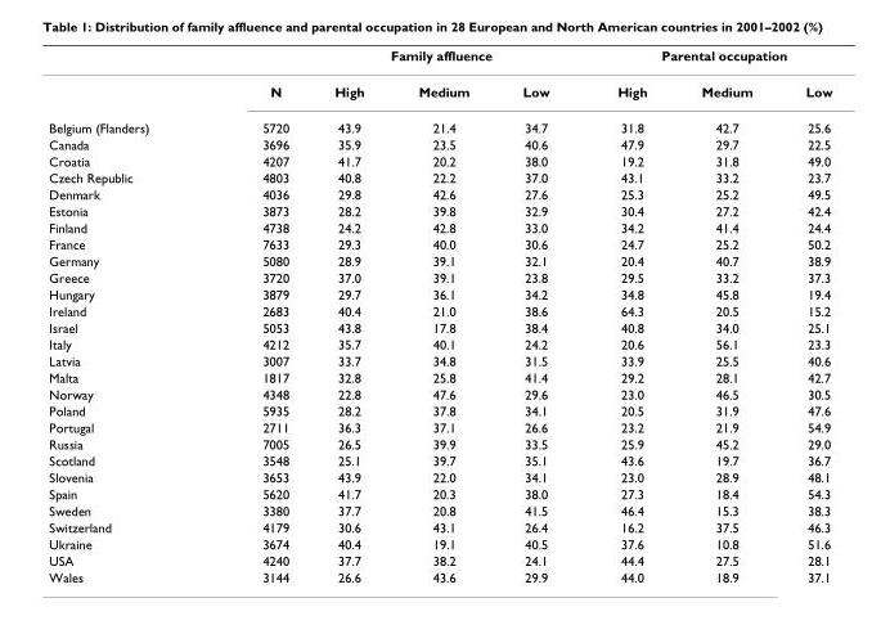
<table><thead><tr><td rowspan="2"></td><td rowspan="2">N</td><td colspan="3">Family affluence</td><td colspan="3">Parental occupation</td></tr><tr><td>High</td><td>Medium</td><td>Low</td><td>High</td><td>Medium</td><td>Low</td></tr></thead><tbody><tr><td>Belgium (Flanders)</td><td>5720</td><td>43.9</td><td>21.4</td><td>34.7</td><td>31.8</td><td>42.7</td><td>25.6</td></tr><tr><td>Canada</td><td>3696</td><td>35.9</td><td>23.5</td><td>40.6</td><td>47.9</td><td>29.7</td><td>22.5</td></tr><tr><td>Croatia</td><td>4207</td><td>41.7</td><td>20.2</td><td>38.0</td><td>19.2</td><td>31.8</td><td>49.0</td></tr><tr><td>Czech Republic</td><td>4803</td><td>40.8</td><td>22.2</td><td>37.0</td><td>43.1</td><td>33.2</td><td>23.7</td></tr><tr><td>Denmark</td><td>4036</td><td>29.8</td><td>42.6</td><td>27.6</td><td>25.3</td><td>25.2</td><td>49.5</td></tr><tr><td>Estonia</td><td>3873</td><td>28.2</td><td>39.8</td><td>32.9</td><td>30.4</td><td>27.2</td><td>42.4</td></tr><tr><td>Finland</td><td>4738</td><td>24.2</td><td>42.8</td><td>33.0</td><td>34.2</td><td>41.4</td><td>24.4</td></tr><tr><td>France</td><td>7633</td><td>29.3</td><td>40.0</td><td>30.6</td><td>24.7</td><td>25.2</td><td>50.2</td></tr><tr><td>Germany</td><td>5080</td><td>28.9</td><td>39.1</td><td>32.1</td><td>20.4</td><td>40.7</td><td>38.9</td></tr><tr><td>Greece</td><td>3720</td><td>37.0</td><td>39.1</td><td>23.8</td><td>29.5</td><td>33.2</td><td>37.3</td></tr><tr><td>Hungary</td><td>3879</td><td>29.7</td><td>36.1</td><td>34.2</td><td>34.8</td><td>45.8</td><td>19.4</td></tr><tr><td>Ireland</td><td>2683</td><td>40.4</td><td>21.0</td><td>38.6</td><td>64.3</td><td>20.5</td><td>15.2</td></tr><tr><td>Israel</td><td>5053</td><td>43.8</td><td>17.8</td><td>38.4</td><td>40.8</td><td>34.0</td><td>25.1</td></tr><tr><td>Italy</td><td>4212</td><td>35.7</td><td>40.1</td><td>24.2</td><td>20.6</td><td>56.1</td><td>23.3</td></tr><tr><td>Latvia</td><td>3007</td><td>33.7</td><td>34.8</td><td>31.5</td><td>33.9</td><td>25.5</td><td>40.6</td></tr><tr><td>Malta</td><td>1817</td><td>32.8</td><td>25.8</td><td>41.4</td><td>29.2</td><td>28.1</td><td>42.7</td></tr><tr><td>Norway</td><td>4348</td><td>22.8</td><td>47.6</td><td>29.6</td><td>23.0</td><td>46.5</td><td>30.5</td></tr><tr><td>Poland</td><td>5935</td><td>28.2</td><td>37.8</td><td>34.1</td><td>20.5</td><td>31.9</td><td>47.6</td></tr><tr><td>Portugal</td><td>2711</td><td>36.3</td><td>37.1</td><td>26.6</td><td>23.2</td><td>21.9</td><td>54.9</td></tr><tr><td>Russia</td><td>7005</td><td>26.5</td><td>39.9</td><td>33.5</td><td>25.9</td><td>45.2</td><td>29.0</td></tr><tr><td>Scotland</td><td>3548</td><td>25.1</td><td>39.7</td><td>35.1</td><td>43.6</td><td>19.7</td><td>36.7</td></tr><tr><td>Slovenia</td><td>3653</td><td>43.9</td><td>22.0</td><td>34.1</td><td>23.0</td><td>28.9</td><td>48.1</td></tr><tr><td>Spain</td><td>5620</td><td>41.7</td><td>20.3</td><td>38.0</td><td>27.3</td><td>18.4</td><td>54.3</td></tr><tr><td>Sweden</td><td>3380</td><td>37.7</td><td>20.8</td><td>41.5</td><td>46.4</td><td>15.3</td><td>38.3</td></tr><tr><td>Switzerland</td><td>4179</td><td>30.6</td><td>43.1</td><td>26.4</td><td>16.2</td><td>37.5</td><td>46.3</td></tr><tr><td>Ukraine</td><td>3674</td><td>40.4</td><td>19.1</td><td>40.5</td><td>37.6</td><td>10.8</td><td>51.6</td></tr><tr><td>USA</td><td>4240</td><td>37.7</td><td>38.2</td><td>24.1</td><td>44.4</td><td>27.5</td><td>28.1</td></tr><tr><td>Wales</td><td>3144</td><td>26.6</td><td>43.6</td><td>29.9</td><td>44.0</td><td>18.9</td><td>37.1</td></tr></tbody></table>